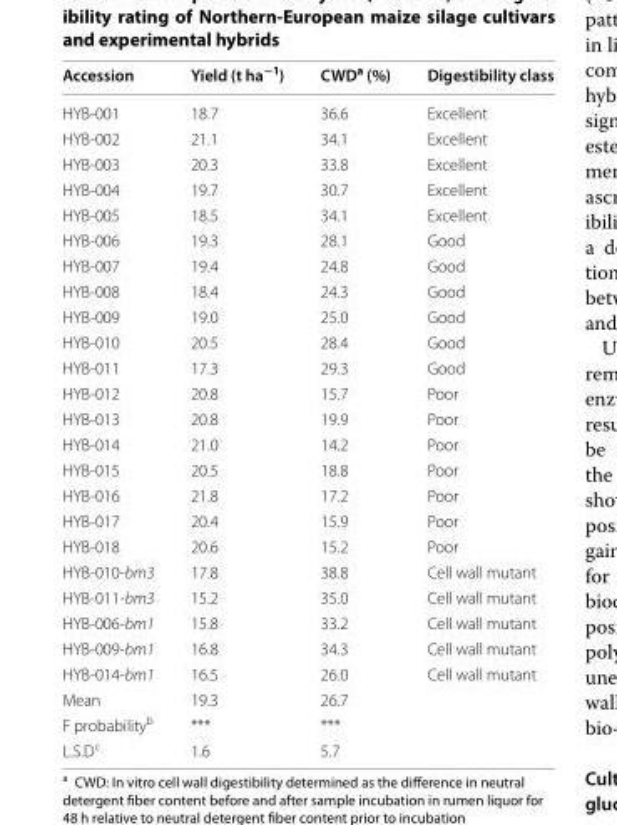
<table><thead><tr><td>Accession</td><td>Yield (t ha<sup>−1</sup>)</td><td>CWD<sup>a</sup> (%)</td><td>Digestibility class</td></tr></thead><tbody><tr><td>HYB‑001</td><td>18.7</td><td>36.6</td><td>Excellent</td></tr><tr><td>HYB‑002</td><td>21.1</td><td>34.1</td><td>Excellent</td></tr><tr><td>HYB‑003</td><td>20.3</td><td>33.8</td><td>Excellent</td></tr><tr><td>HYB‑004</td><td>19.7</td><td>30.7</td><td>Excellent</td></tr><tr><td>HYB‑005</td><td>18.5</td><td>34.1</td><td>Excellent</td></tr><tr><td>HYB‑006</td><td>19.3</td><td>28.1</td><td>Good</td></tr><tr><td>HYB‑007</td><td>19.4</td><td>24.8</td><td>Good</td></tr><tr><td>HYB‑008</td><td>18.4</td><td>24.3</td><td>Good</td></tr><tr><td>HYB‑009</td><td>19.0</td><td>25.0</td><td>Good</td></tr><tr><td>HYB‑010</td><td>20.5</td><td>28.4</td><td>Good</td></tr><tr><td>HYB‑011</td><td>17.3</td><td>29.3</td><td>Good</td></tr><tr><td>HYB‑012</td><td>20.8</td><td>15.7</td><td>Poor</td></tr><tr><td>HYB‑013</td><td>20.8</td><td>19.9</td><td>Poor</td></tr><tr><td>HYB‑014</td><td>21.0</td><td>14.2</td><td>Poor</td></tr><tr><td>HYB‑015</td><td>20.5</td><td>18.8</td><td>Poor</td></tr><tr><td>HYB‑016</td><td>21.8</td><td>17.2</td><td>Poor</td></tr><tr><td>HYB‑017</td><td>20.4</td><td>15.9</td><td>Poor</td></tr><tr><td>HYB‑018</td><td>20.6</td><td>15.2</td><td>Poor</td></tr><tr><td>HYB‑010‑bm3</td><td>17.8</td><td>38.8</td><td>Cell wall mutant</td></tr><tr><td>HYB‑011‑bm3</td><td>15.2</td><td>35.0</td><td>Cell wall mutant</td></tr><tr><td>HYB‑006‑bm1</td><td>15.8</td><td>33.2</td><td>Cell wall mutant</td></tr><tr><td>HYB‑009‑bm1</td><td>16.8</td><td>34.3</td><td>Cell wall mutant</td></tr><tr><td>HYB‑014‑bm1</td><td>16.5</td><td>26.0</td><td>Cell wall mutant</td></tr><tr><td>Mean</td><td>19.3</td><td colspan="2">26.7</td></tr><tr><td>F probability<sup>b</sup></td><td>***</td><td colspan="2">***</td></tr><tr><td>L.S.D<sup>c</sup></td><td>1.6</td><td colspan="2">5.7</td></tr></tbody></table>